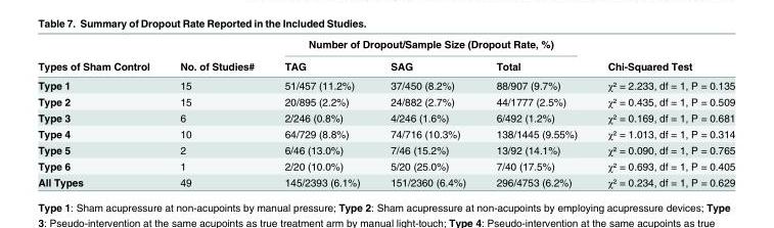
<table><thead><tr><td rowspan="2">Types of Sham Control</td><td rowspan="2">No. of Studies#</td><td colspan="3">Number of Dropout/Sample Size (Dropout Rate, %)</td><td rowspan="2">Chi-Squared Test</td></tr><tr><td>TAG</td><td>SAG</td><td>Total</td></tr></thead><tbody><tr><td>Type 1</td><td>15</td><td>51/457 (11.2%)</td><td>37/450 (8.2%)</td><td>88/907 (9.7%)</td><td>χ² = 2.233, df = 1, P = 0.135</td></tr><tr><td>Type 2</td><td>15</td><td>20/895 (2.2%)</td><td>24/882 (2.7%)</td><td>44/1777 (2.5%)</td><td>χ² = 0.435, df = 1, P = 0.509</td></tr><tr><td>Type 3</td><td>6</td><td>2/246 (0.8%)</td><td>4/246 (1.6%)</td><td>6/492 (1.2%)</td><td>χ² = 0.169, df = 1, P = 0.681</td></tr><tr><td>Type 4</td><td>10</td><td>64/729 (8.8%)</td><td>74/716 (10.3%)</td><td>138/1445 (9.55%)</td><td>χ² = 1.013, df = 1, P = 0.314</td></tr><tr><td>Type 5</td><td>2</td><td>6/46 (13.0%)</td><td>7/46 (15.2%)</td><td>13/92 (14.1%)</td><td>χ² = 0.090, df = 1, P = 0.765</td></tr><tr><td>Type 6</td><td>1</td><td>2/20 (10.0%)</td><td>5/20 (25.0%)</td><td>7/40 (17.5%)</td><td>χ² = 0.693, df = 1, P = 0.405</td></tr><tr><td>All Types</td><td>49</td><td>145/2393 (6.1%)</td><td>151/2360 (6.4%)</td><td>296/4753 (6.2%)</td><td>χ² = 0.234, df = 1, P = 0.629</td></tr></tbody></table>